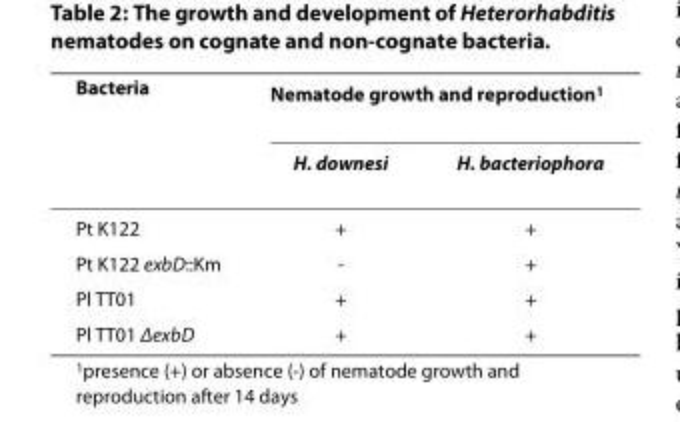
<table><thead><tr><td rowspan="2">Bacteria</td><td colspan="2">Nematode growth and reproduction<sup>1</sup></td></tr><tr><td>H. downesi</td><td>H. bacteriophora</td></tr></thead><tbody><tr><td>Pt K122</td><td>+</td><td>+</td></tr><tr><td>Pt K122 exbD::Km</td><td>-</td><td>+</td></tr><tr><td>Pl TT01</td><td>+</td><td>+</td></tr><tr><td>Pl TT01 ΔexbD</td><td>+</td><td>+</td></tr></tbody></table>